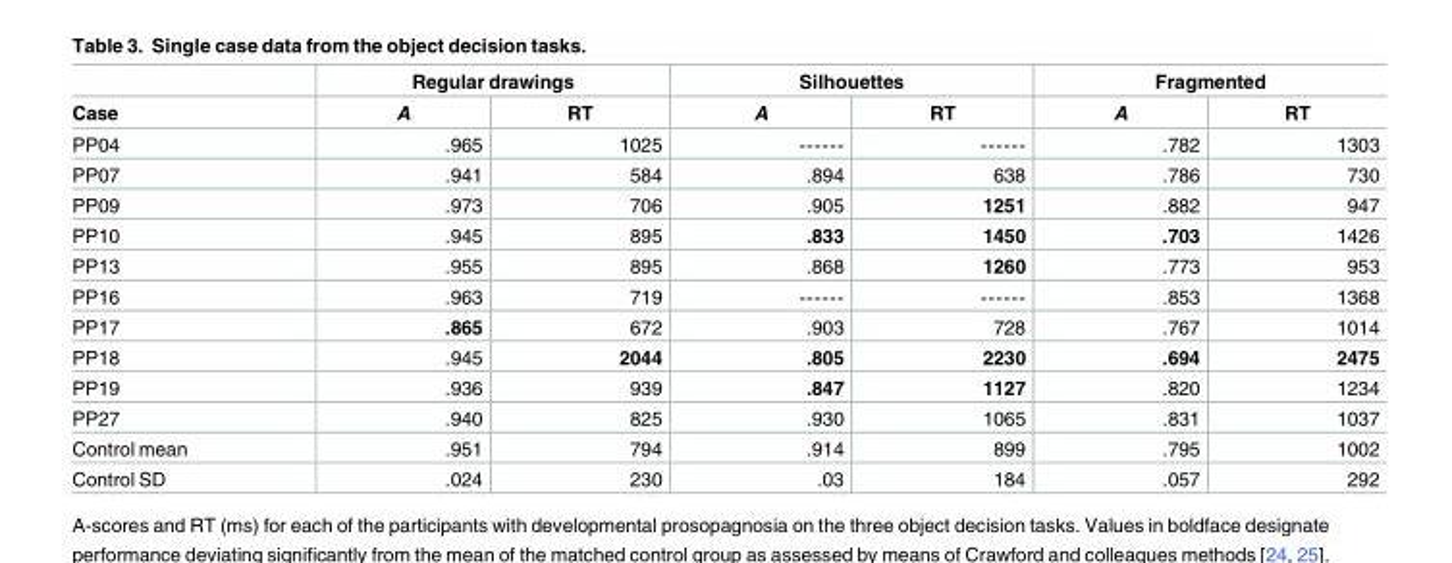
<table><thead><tr><td rowspan="2">Case</td><td colspan="2">Regular drawings</td><td colspan="2">Silhouettes</td><td colspan="2">Fragmented</td></tr><tr><td>A</td><td>RT</td><td>A</td><td>RT</td><td>A</td><td>RT</td></tr></thead><tbody><tr><td>PP04</td><td>.965</td><td>1025</td><td>------</td><td>------</td><td>.782</td><td>1303</td></tr><tr><td>PP07</td><td>.941</td><td>584</td><td>.894</td><td>638</td><td>.786</td><td>730</td></tr><tr><td>PP09</td><td>.973</td><td>706</td><td>.905</td><td>1251</td><td>.882</td><td>947</td></tr><tr><td>PP10</td><td>.945</td><td>895</td><td>.833</td><td>1450</td><td>.703</td><td>1426</td></tr><tr><td>PP13</td><td>.955</td><td>895</td><td>.868</td><td>1260</td><td>.773</td><td>953</td></tr><tr><td>PP16</td><td>.963</td><td>719</td><td>------</td><td>------</td><td>.853</td><td>1368</td></tr><tr><td>PP17</td><td>.865</td><td>672</td><td>.903</td><td>728</td><td>.767</td><td>1014</td></tr><tr><td>PP18</td><td>.945</td><td>2044</td><td>.805</td><td>2230</td><td>.694</td><td>2475</td></tr><tr><td>PP19</td><td>.936</td><td>939</td><td>.847</td><td>1127</td><td>.820</td><td>1234</td></tr><tr><td>PP27</td><td>.940</td><td>825</td><td>.930</td><td>1065</td><td>.831</td><td>1037</td></tr><tr><td>Control mean</td><td>.951</td><td>794</td><td>.914</td><td>899</td><td>.795</td><td>1002</td></tr><tr><td>Control SD</td><td>.024</td><td>230</td><td>.03</td><td>184</td><td>.057</td><td>292</td></tr></tbody></table>